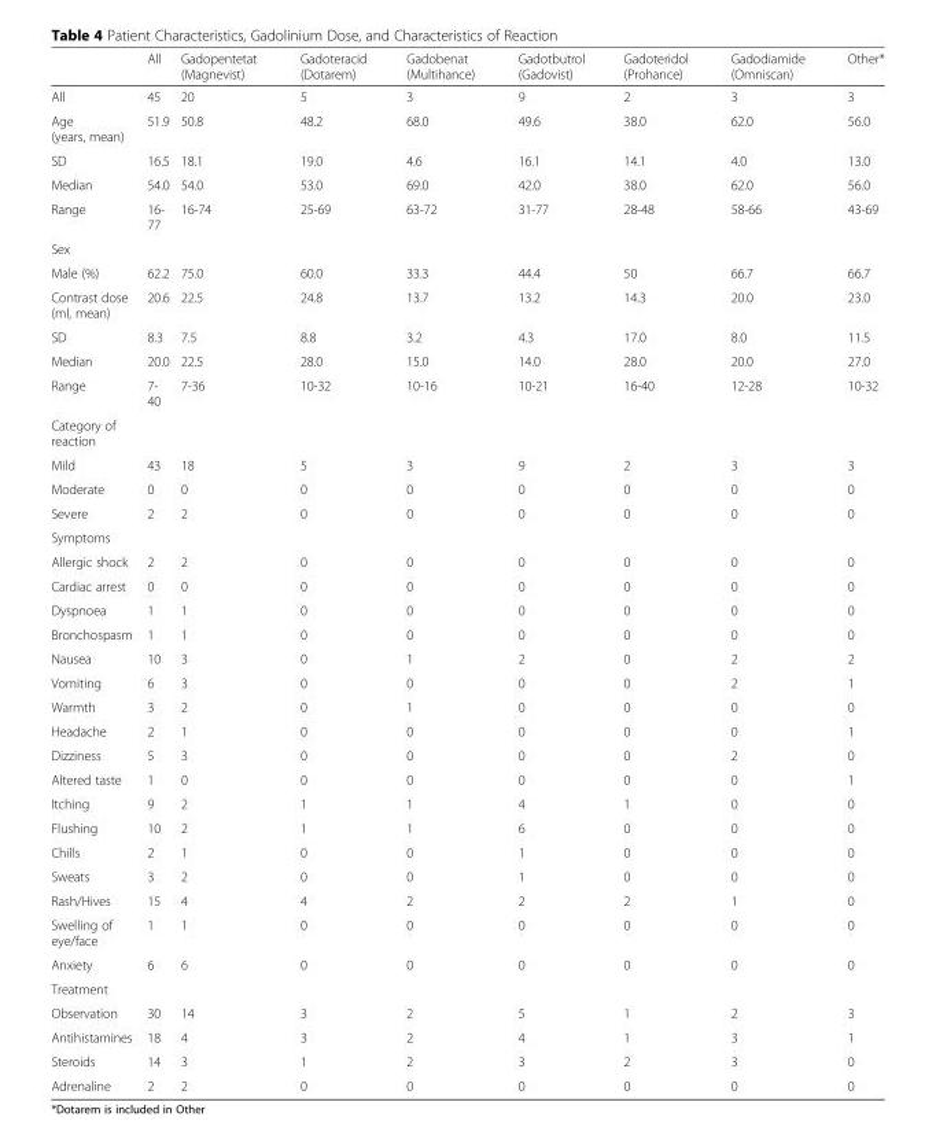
<table><thead><tr><td></td><td>All</td><td>Gadopentetat (Magnevist)</td><td>Gadoteracid (Dotarem)</td><td>Gadobenat (Multihance)</td><td>Gadotbutrol (Gadovist)</td><td>Gadoteridol (Prohance)</td><td>Gadodiamide (Omniscan)</td><td>Other*</td></tr></thead><tbody><tr><td>All</td><td>45</td><td>20</td><td>5</td><td>3</td><td>9</td><td>2</td><td>3</td><td>3</td></tr><tr><td>Age (years, mean)</td><td>51.9</td><td>50.8</td><td>48.2</td><td>68.0</td><td>49.6</td><td>38.0</td><td>62.0</td><td>56.0</td></tr><tr><td>SD</td><td>16.5</td><td>18.1</td><td>19.0</td><td>4.6</td><td>16.1</td><td>14.1</td><td>4.0</td><td>13.0</td></tr><tr><td>Median</td><td>54.0</td><td>54.0</td><td>53.0</td><td>69.0</td><td>42.0</td><td>38.0</td><td>62.0</td><td>56.0</td></tr><tr><td>Range</td><td>16- 77</td><td>16-74</td><td>25-69</td><td>63-72</td><td>31-77</td><td>28-48</td><td>58-66</td><td>43-69</td></tr><tr><td colspan="9">Sex</td></tr><tr><td>Male (%)</td><td>62.2</td><td>75.0</td><td>60.0</td><td>33.3</td><td>44.4</td><td>50</td><td>66.7</td><td>66.7</td></tr><tr><td>Contrast dose (ml, mean)</td><td>20.6</td><td>22.5</td><td>24.8</td><td>13.7</td><td>13.2</td><td>14.3</td><td>20.0</td><td>23.0</td></tr><tr><td>SD</td><td>8.3</td><td>7.5</td><td>8.8</td><td>3.2</td><td>4.3</td><td>17.0</td><td>8.0</td><td>11.5</td></tr><tr><td>Median</td><td>20.0</td><td>22.5</td><td>28.0</td><td>15.0</td><td>14.0</td><td>28.0</td><td>20.0</td><td>27.0</td></tr><tr><td>Range</td><td>7- 40</td><td>7-36</td><td>10-32</td><td>10-16</td><td>10-21</td><td>16-40</td><td>12-28</td><td>10-32</td></tr><tr><td colspan="9">Category of reaction</td></tr><tr><td>Mild</td><td>43</td><td>18</td><td>5</td><td>3</td><td>9</td><td>2</td><td>3</td><td>3</td></tr><tr><td>Moderate</td><td>0</td><td>0</td><td>0</td><td>0</td><td>0</td><td>0</td><td>0</td><td>0</td></tr><tr><td>Severe</td><td>2</td><td>2</td><td>0</td><td>0</td><td>0</td><td>0</td><td>0</td><td>0</td></tr><tr><td colspan="9">Symptoms</td></tr><tr><td>Allergic shock</td><td>2</td><td>2</td><td>0</td><td>0</td><td>0</td><td>0</td><td>0</td><td>0</td></tr><tr><td>Cardiac arrest</td><td>0</td><td>0</td><td>0</td><td>0</td><td>0</td><td>0</td><td>0</td><td>0</td></tr><tr><td>Dyspnoea</td><td>1</td><td>1</td><td>0</td><td>0</td><td>0</td><td>0</td><td>0</td><td>0</td></tr><tr><td>Bronchospasm</td><td>1</td><td>1</td><td>0</td><td>0</td><td>0</td><td>0</td><td>0</td><td>0</td></tr><tr><td>Nausea</td><td>10</td><td>3</td><td>0</td><td>1</td><td>2</td><td>0</td><td>2</td><td>2</td></tr><tr><td>Vomiting</td><td>6</td><td>3</td><td>0</td><td>0</td><td>0</td><td>0</td><td>2</td><td>1</td></tr><tr><td>Warmth</td><td>3</td><td>2</td><td>0</td><td>1</td><td>0</td><td>0</td><td>0</td><td>0</td></tr><tr><td>Headache</td><td>2</td><td>1</td><td>0</td><td>0</td><td>0</td><td>0</td><td>0</td><td>1</td></tr><tr><td>Dizziness</td><td>5</td><td>3</td><td>0</td><td>0</td><td>0</td><td>0</td><td>2</td><td>0</td></tr><tr><td>Altered taste</td><td>1</td><td>0</td><td>0</td><td>0</td><td>0</td><td>0</td><td>0</td><td>1</td></tr><tr><td>Itching</td><td>9</td><td>2</td><td>1</td><td>1</td><td>4</td><td>1</td><td>0</td><td>0</td></tr><tr><td>Flushing</td><td>10</td><td>2</td><td>1</td><td>1</td><td>6</td><td>0</td><td>0</td><td>0</td></tr><tr><td>Chills</td><td>2</td><td>1</td><td>0</td><td>0</td><td>1</td><td>0</td><td>0</td><td>0</td></tr><tr><td>Sweats</td><td>3</td><td>2</td><td>0</td><td>0</td><td>1</td><td>0</td><td>0</td><td>0</td></tr><tr><td>Rash/Hives</td><td>15</td><td>4</td><td>4</td><td>2</td><td>2</td><td>2</td><td>1</td><td>0</td></tr><tr><td>Swelling of eye/face</td><td>1</td><td>1</td><td>0</td><td>0</td><td>0</td><td>0</td><td>0</td><td>0</td></tr><tr><td>Anxiety</td><td>6</td><td>6</td><td>0</td><td>0</td><td>0</td><td>0</td><td>0</td><td>0</td></tr><tr><td colspan="9">Treatment</td></tr><tr><td>Observation</td><td>30</td><td>14</td><td>3</td><td>2</td><td>5</td><td>1</td><td>2</td><td>3</td></tr><tr><td>Antihistamines</td><td>18</td><td>4</td><td>3</td><td>2</td><td>4</td><td>1</td><td>3</td><td>1</td></tr><tr><td>Steroids</td><td>14</td><td>3</td><td>1</td><td>2</td><td>3</td><td>2</td><td>3</td><td>0</td></tr><tr><td>Adrenaline</td><td>2</td><td>2</td><td>0</td><td>0</td><td>0</td><td>0</td><td>0</td><td>0</td></tr></tbody></table>